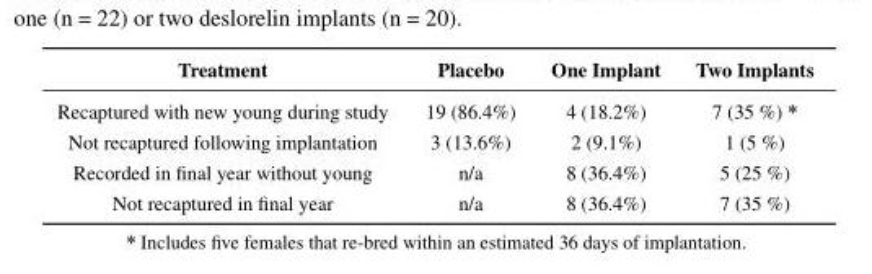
<table><thead><tr><td>Treatment</td><td>Placebo</td><td>One Implant</td><td>Two Implants</td></tr></thead><tbody><tr><td>Recaptured with new young during study</td><td>19 (86.4%)</td><td>4 (18.2%)</td><td>7 (35 %) *</td></tr><tr><td>Not recaptured following implantation</td><td>3 (13.6%)</td><td>2 (9.1%)</td><td>1 (5 %)</td></tr><tr><td>Recorded in final year without young</td><td>n/a</td><td>8 (36.4%)</td><td>5 (25 %)</td></tr><tr><td>Not recaptured in final year</td><td>n/a</td><td>8 (36.4%)</td><td>7 (35 %)</td></tr></tbody></table>